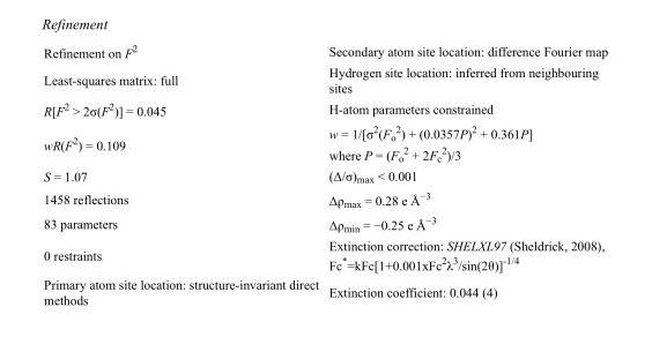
<table><tbody><tr><td>Refinement on F<sup>2</sup></td><td>Secondary atom site location: difference Fourier map</td></tr><tr><td>Least-squares matrix: full</td><td>Hydrogen site location: inferred from neighbouring sites</td></tr><tr><td>R[F<sup>2</sup> &gt; 2σ(F<sup>2</sup>)] = 0.045</td><td>H-atom parameters constrained</td></tr><tr><td>wR(F<sup>2</sup>) = 0.109</td><td>w = 1/[σ<sup>2</sup>(F<sub>o</sub> <sup>2</sup>) + (0.0357P)<sup>2</sup> + 0.361P] where P = (F<sub>o</sub> <sup>2</sup> + 2F<sub>c</sub> <sup>2</sup>)/3</td></tr><tr><td>S = 1.07</td><td>(Δ/σ)<sub>max</sub> &lt; 0.001</td></tr><tr><td>1458 reflections</td><td>Δρ<sub>max</sub> = 0.28 e Å<sup>−3</sup></td></tr><tr><td>83 parameters</td><td>Δρ<sub>min</sub> = −0.25 e Å<sup>−3</sup></td></tr><tr><td>0 restraints</td><td>Extinction correction: SHELXL97 (Sheldrick, 2008), Fc*=kFc[1+0.001xFc<sup>2</sup>λ<sup>3</sup>/sin(2θ)]<sup>-1/4</sup></td></tr><tr><td>Primary atom site location: structure-invariant direct methods</td><td>Extinction coefficient: 0.044 (4)</td></tr></tbody></table>